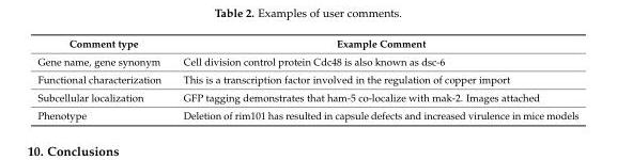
<table><thead><tr><td>Comment type</td><td>Example Comment</td></tr></thead><tbody><tr><td>Gene name, gene synonym</td><td>Cell division control protein Cdc48 is also known as dsc-6</td></tr><tr><td>Functional characterization</td><td>This is a transcription factor involved in the regulation of copper import</td></tr><tr><td>Subcellular localization</td><td>GFP tagging demonstrates that ham-5 co-localize with mak-2. Images attached</td></tr><tr><td>Phenotype</td><td>Deletion of rim101 has resulted in capsule defects and increased virulence in mice models</td></tr></tbody></table>